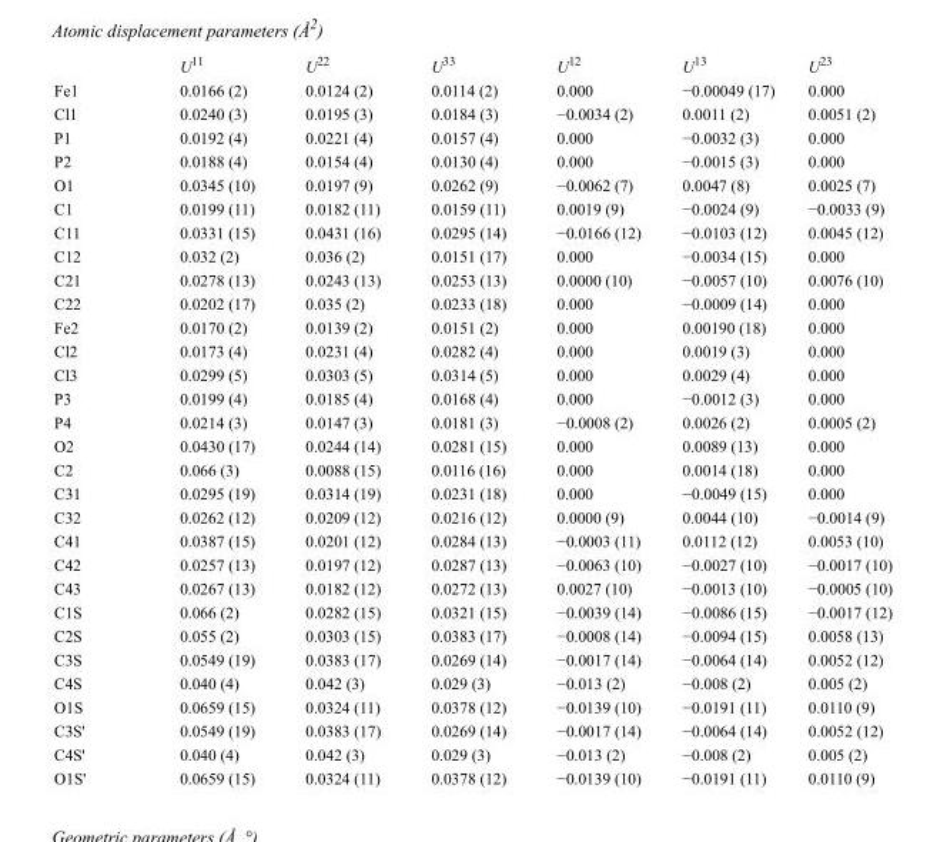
<table><thead><tr><td></td><td>U<sup>11</sup></td><td>U<sup>22</sup></td><td>U<sup>33</sup></td><td>U<sup>12</sup></td><td>U<sup>13</sup></td><td>U<sup>23</sup></td></tr></thead><tbody><tr><td>Fe1</td><td>0.0166 (2)</td><td>0.0124 (2)</td><td>0.0114 (2)</td><td>0.000</td><td>−0.00049 (17)</td><td>0.000</td></tr><tr><td>Cl1</td><td>0.0240 (3)</td><td>0.0195 (3)</td><td>0.0184 (3)</td><td>−0.0034 (2)</td><td>0.0011 (2)</td><td>0.0051 (2)</td></tr><tr><td>P1</td><td>0.0192 (4)</td><td>0.0221 (4)</td><td>0.0157 (4)</td><td>0.000</td><td>−0.0032 (3)</td><td>0.000</td></tr><tr><td>P2</td><td>0.0188 (4)</td><td>0.0154 (4)</td><td>0.0130 (4)</td><td>0.000</td><td>−0.0015 (3)</td><td>0.000</td></tr><tr><td>O1</td><td>0.0345 (10)</td><td>0.0197 (9)</td><td>0.0262 (9)</td><td>−0.0062 (7)</td><td>0.0047 (8)</td><td>0.0025 (7)</td></tr><tr><td>C1</td><td>0.0199 (11)</td><td>0.0182 (11)</td><td>0.0159 (11)</td><td>0.0019 (9)</td><td>−0.0024 (9)</td><td>−0.0033 (9)</td></tr><tr><td>C11</td><td>0.0331 (15)</td><td>0.0431 (16)</td><td>0.0295 (14)</td><td>−0.0166 (12)</td><td>−0.0103 (12)</td><td>0.0045 (12)</td></tr><tr><td>C12</td><td>0.032 (2)</td><td>0.036 (2)</td><td>0.0151 (17)</td><td>0.000</td><td>−0.0034 (15)</td><td>0.000</td></tr><tr><td>C21</td><td>0.0278 (13)</td><td>0.0243 (13)</td><td>0.0253 (13)</td><td>0.0000 (10)</td><td>−0.0057 (10)</td><td>0.0076 (10)</td></tr><tr><td>C22</td><td>0.0202 (17)</td><td>0.035 (2)</td><td>0.0233 (18)</td><td>0.000</td><td>−0.0009 (14)</td><td>0.000</td></tr><tr><td>Fe2</td><td>0.0170 (2)</td><td>0.0139 (2)</td><td>0.0151 (2)</td><td>0.000</td><td>0.00190 (18)</td><td>0.000</td></tr><tr><td>Cl2</td><td>0.0173 (4)</td><td>0.0231 (4)</td><td>0.0282 (4)</td><td>0.000</td><td>0.0019 (3)</td><td>0.000</td></tr><tr><td>Cl3</td><td>0.0299 (5)</td><td>0.0303 (5)</td><td>0.0314 (5)</td><td>0.000</td><td>0.0029 (4)</td><td>0.000</td></tr><tr><td>P3</td><td>0.0199 (4)</td><td>0.0185 (4)</td><td>0.0168 (4)</td><td>0.000</td><td>−0.0012 (3)</td><td>0.000</td></tr><tr><td>P4</td><td>0.0214 (3)</td><td>0.0147 (3)</td><td>0.0181 (3)</td><td>−0.0008 (2)</td><td>0.0026 (2)</td><td>0.0005 (2)</td></tr><tr><td>O2</td><td>0.0430 (17)</td><td>0.0244 (14)</td><td>0.0281 (15)</td><td>0.000</td><td>0.0089 (13)</td><td>0.000</td></tr><tr><td>C2</td><td>0.066 (3)</td><td>0.0088 (15)</td><td>0.0116 (16)</td><td>0.000</td><td>0.0014 (18)</td><td>0.000</td></tr><tr><td>C31</td><td>0.0295 (19)</td><td>0.0314 (19)</td><td>0.0231 (18)</td><td>0.000</td><td>−0.0049 (15)</td><td>0.000</td></tr><tr><td>C32</td><td>0.0262 (12)</td><td>0.0209 (12)</td><td>0.0216 (12)</td><td>0.0000 (9)</td><td>0.0044 (10)</td><td>−0.0014 (9)</td></tr><tr><td>C41</td><td>0.0387 (15)</td><td>0.0201 (12)</td><td>0.0284 (13)</td><td>−0.0003 (11)</td><td>0.0112 (12)</td><td>0.0053 (10)</td></tr><tr><td>C42</td><td>0.0257 (13)</td><td>0.0197 (12)</td><td>0.0287 (13)</td><td>−0.0063 (10)</td><td>−0.0027 (10)</td><td>−0.0017 (10)</td></tr><tr><td>C43</td><td>0.0267 (13)</td><td>0.0182 (12)</td><td>0.0272 (13)</td><td>0.0027 (10)</td><td>−0.0013 (10)</td><td>−0.0005 (10)</td></tr><tr><td>C1S</td><td>0.066 (2)</td><td>0.0282 (15)</td><td>0.0321 (15)</td><td>−0.0039 (14)</td><td>−0.0086 (15)</td><td>−0.0017 (12)</td></tr><tr><td>C2S</td><td>0.055 (2)</td><td>0.0303 (15)</td><td>0.0383 (17)</td><td>−0.0008 (14)</td><td>−0.0094 (15)</td><td>0.0058 (13)</td></tr><tr><td>C3S</td><td>0.0549 (19)</td><td>0.0383 (17)</td><td>0.0269 (14)</td><td>−0.0017 (14)</td><td>−0.0064 (14)</td><td>0.0052 (12)</td></tr><tr><td>C4S</td><td>0.040 (4)</td><td>0.042 (3)</td><td>0.029 (3)</td><td>−0.013 (2)</td><td>−0.008 (2)</td><td>0.005 (2)</td></tr><tr><td>O1S</td><td>0.0659 (15)</td><td>0.0324 (11)</td><td>0.0378 (12)</td><td>−0.0139 (10)</td><td>−0.0191 (11)</td><td>0.0110 (9)</td></tr><tr><td>C3S&#x27;</td><td>0.0549 (19)</td><td>0.0383 (17)</td><td>0.0269 (14)</td><td>−0.0017 (14)</td><td>−0.0064 (14)</td><td>0.0052 (12)</td></tr><tr><td>C4S&#x27;</td><td>0.040 (4)</td><td>0.042 (3)</td><td>0.029 (3)</td><td>−0.013 (2)</td><td>−0.008 (2)</td><td>0.005 (2)</td></tr><tr><td>O1S&#x27;</td><td>0.0659 (15)</td><td>0.0324 (11)</td><td>0.0378 (12)</td><td>−0.0139 (10)</td><td>−0.0191 (11)</td><td>0.0110 (9)</td></tr></tbody></table>